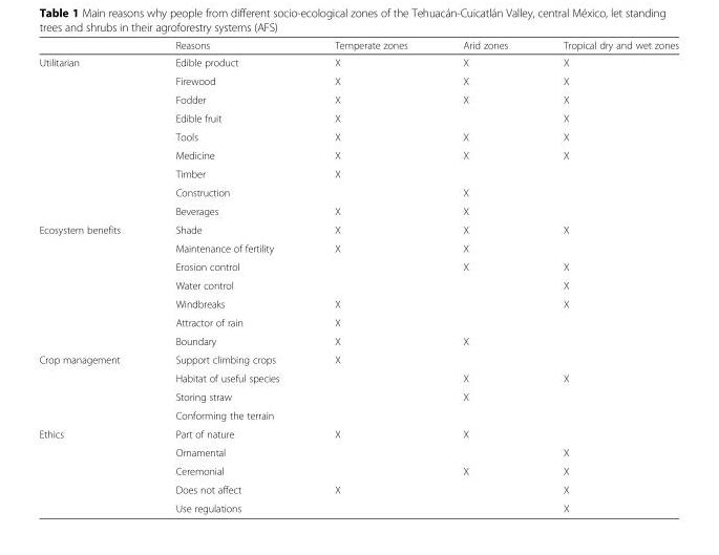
<table><thead><tr><td></td><td>Reasons</td><td>Temperate zones</td><td>Arid zones</td><td>Tropical dry and wet zones</td></tr></thead><tbody><tr><td rowspan="9">Utilitarian</td><td>Edible product</td><td>X</td><td>X</td><td>X</td></tr><tr><td>Firewood</td><td>X</td><td>X</td><td>X</td></tr><tr><td>Fodder</td><td>X</td><td>X</td><td>X</td></tr><tr><td>Edible fruit</td><td>X</td><td></td><td>X</td></tr><tr><td>Tools</td><td>X</td><td>X</td><td>X</td></tr><tr><td>Medicine</td><td>X</td><td>X</td><td>X</td></tr><tr><td>Timber</td><td>X</td><td></td><td></td></tr><tr><td>Construction</td><td></td><td>X</td><td></td></tr><tr><td>Beverages</td><td>X</td><td>X</td><td></td></tr><tr><td rowspan="7">Ecosystem benefits</td><td>Shade</td><td>X</td><td>X</td><td>X</td></tr><tr><td>Maintenance of fertility</td><td>X</td><td>X</td><td></td></tr><tr><td>Erosion control</td><td></td><td>X</td><td>X</td></tr><tr><td>Water control</td><td></td><td></td><td>X</td></tr><tr><td>Windbreaks</td><td>X</td><td></td><td>X</td></tr><tr><td>Attractor of rain</td><td>X</td><td></td><td></td></tr><tr><td>Boundary</td><td>X</td><td>X</td><td></td></tr><tr><td rowspan="4">Crop management</td><td>Support climbing crops</td><td>X</td><td></td><td></td></tr><tr><td>Habitat of useful species</td><td></td><td>X</td><td>X</td></tr><tr><td>Storing straw</td><td></td><td>X</td><td></td></tr><tr><td>Conforming the terrain</td><td></td><td></td><td></td></tr><tr><td rowspan="5">Ethics</td><td>Part of nature</td><td>X</td><td>X</td><td></td></tr><tr><td>Ornamental</td><td></td><td></td><td>X</td></tr><tr><td>Ceremonial</td><td></td><td>X</td><td>X</td></tr><tr><td>Does not affect</td><td>X</td><td></td><td>X</td></tr><tr><td>Use regulations</td><td></td><td></td><td>X</td></tr></tbody></table>